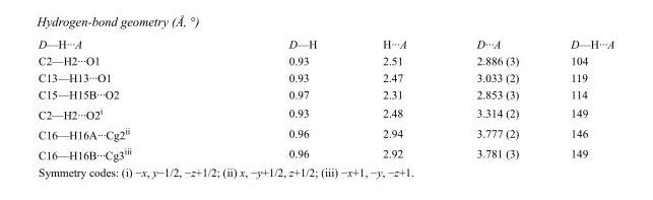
<table><tbody><tr><td>D—H···A</td><td>D—H</td><td>H···A</td><td>D···A</td><td>D—H···A</td></tr><tr><td>C2—H2···O1</td><td>0.93</td><td>2.51</td><td>2.886 (3)</td><td>104</td></tr><tr><td>C13—H13···O1</td><td>0.93</td><td>2.47</td><td>3.033 (2)</td><td>119</td></tr><tr><td>C15—H15B···O2</td><td>0.97</td><td>2.31</td><td>2.853 (3)</td><td>114</td></tr><tr><td>C2—H2···O2<sup>i</sup></td><td>0.93</td><td>2.48</td><td>3.314 (2)</td><td>149</td></tr><tr><td>C16—H16A···Cg2<sup>ii</sup></td><td>0.96</td><td>2.94</td><td>3.777 (2)</td><td>146</td></tr><tr><td>C16—H16B···Cg3<sup>iii</sup></td><td>0.96</td><td>2.92</td><td>3.781 (3)</td><td>149</td></tr></tbody></table>